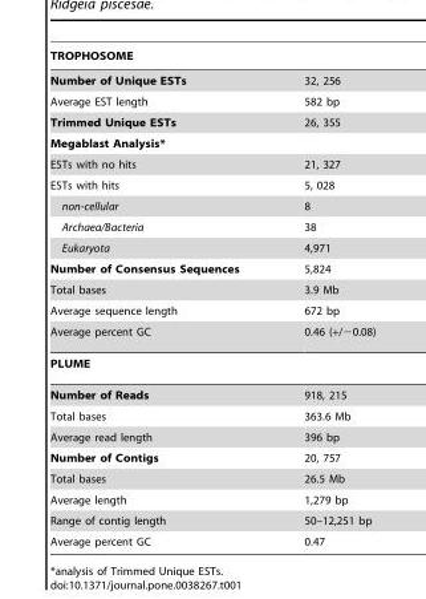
<table><thead><tr><td colspan="2">TROPHOSOME</td></tr><tr><td>Number of Unique ESTs</td><td>32, 256</td></tr></thead><tbody><tr><td>Average EST length</td><td>582 bp</td></tr><tr><td>Trimmed Unique ESTs</td><td>26, 355</td></tr><tr><td colspan="2">Megablast Analysis*</td></tr><tr><td>ESTs with no hits</td><td>21, 327</td></tr><tr><td>ESTs with hits</td><td>5, 028</td></tr><tr><td>non-cellular</td><td>8</td></tr><tr><td>Archaea/Bacteria</td><td>38</td></tr><tr><td>Eukaryota</td><td>4,971</td></tr><tr><td>Number of Consensus Sequences</td><td>5,824</td></tr><tr><td>Total bases</td><td>3.9 Mb</td></tr><tr><td>Average sequence length</td><td>672 bp</td></tr><tr><td>Average percent GC</td><td>0.46 (+/−0.08)</td></tr><tr><td colspan="2">PLUME</td></tr><tr><td>Number of Reads</td><td>918, 215</td></tr><tr><td>Total bases</td><td>363.6 Mb</td></tr><tr><td>Average read length</td><td>396 bp</td></tr><tr><td>Number of Contigs</td><td>20, 757</td></tr><tr><td>Total bases</td><td>26.5 Mb</td></tr><tr><td>Average length</td><td>1,279 bp</td></tr><tr><td>Range of contig length</td><td>50–12,251 bp</td></tr><tr><td>Average percent GC</td><td>0.47</td></tr></tbody></table>